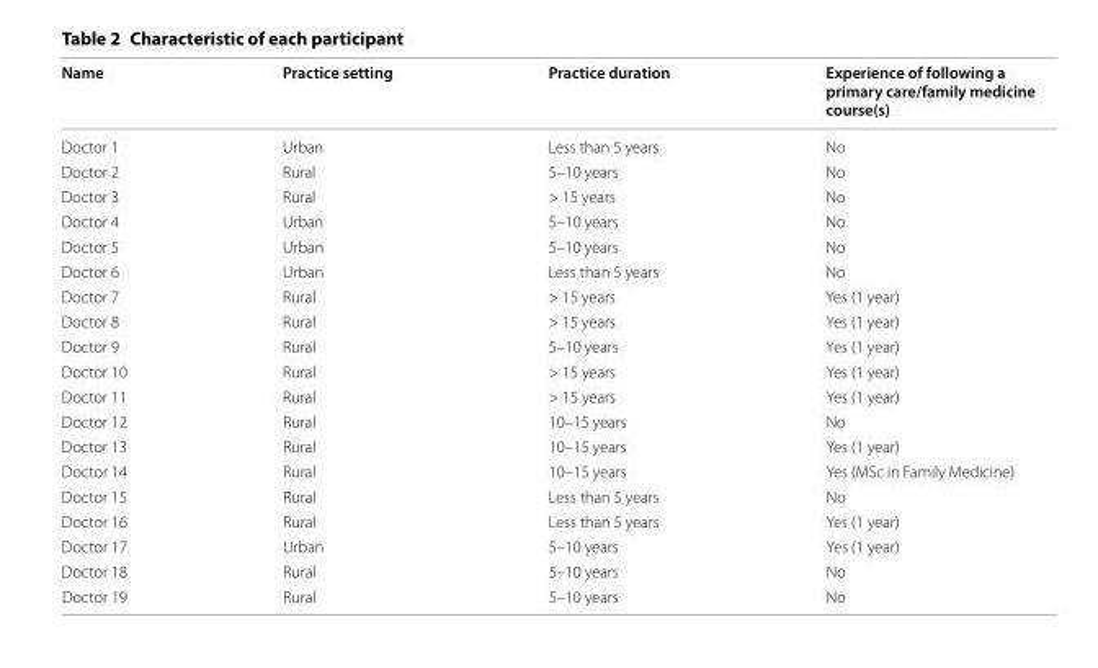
<table><thead><tr><td>Name</td><td>Practice setting</td><td>Practice duration</td><td>Experience of following a primary care/family medicine course(s)</td></tr></thead><tbody><tr><td>Doctor 1</td><td>Urban</td><td>Less than 5 years</td><td>No</td></tr><tr><td>Doctor 2</td><td>Rural</td><td>5–10 years</td><td>No</td></tr><tr><td>Doctor 3</td><td>Rural</td><td>&gt; 15 years</td><td>No</td></tr><tr><td>Doctor 4</td><td>Urban</td><td>5–10 years</td><td>No</td></tr><tr><td>Doctor 5</td><td>Urban</td><td>5–10 years</td><td>No</td></tr><tr><td>Doctor 6</td><td>Urban</td><td>Less than 5 years</td><td>No</td></tr><tr><td>Doctor 7</td><td>Rural</td><td>&gt; 15 years</td><td>Yes (1 year)</td></tr><tr><td>Doctor 8</td><td>Rural</td><td>&gt; 15 years</td><td>Yes (1 year)</td></tr><tr><td>Doctor 9</td><td>Rural</td><td>5–10 years</td><td>Yes (1 year)</td></tr><tr><td>Doctor 10</td><td>Rural</td><td>&gt; 15 years</td><td>Yes (1 year)</td></tr><tr><td>Doctor 11</td><td>Rural</td><td>&gt; 15 years</td><td>Yes (1 year)</td></tr><tr><td>Doctor 12</td><td>Rural</td><td>10–15 years</td><td>No</td></tr><tr><td>Doctor 13</td><td>Rural</td><td>10–15 years</td><td>Yes (1 year)</td></tr><tr><td>Doctor 14</td><td>Rural</td><td>10–15 years</td><td>Yes (MSc in Family Medicine)</td></tr><tr><td>Doctor 15</td><td>Rural</td><td>Less than 5 years</td><td>No</td></tr><tr><td>Doctor 16</td><td>Rural</td><td>Less than 5 years</td><td>Yes (1 year)</td></tr><tr><td>Doctor 17</td><td>Urban</td><td>5–10 years</td><td>Yes (1 year)</td></tr><tr><td>Doctor 18</td><td>Rural</td><td>5–10 years</td><td>No</td></tr><tr><td>Doctor 19</td><td>Rural</td><td>5–10 years</td><td>No</td></tr></tbody></table>